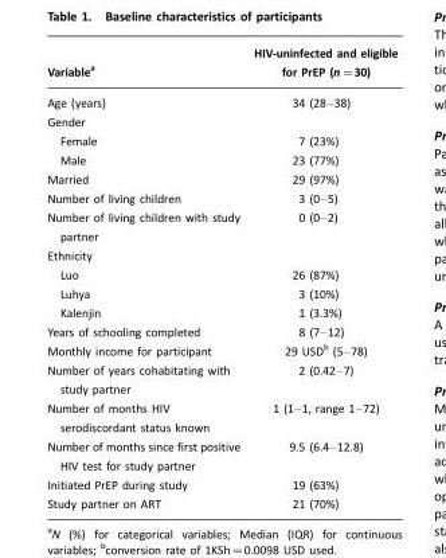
<table><thead><tr><td>Variable<sup>a</sup></td><td>HIV-uninfected and eligible for PrEP (n=30)</td></tr></thead><tbody><tr><td>Age (years)</td><td>34 (28–38)</td></tr><tr><td colspan="2">Gender</td></tr><tr><td>Female</td><td>7 (23%)</td></tr><tr><td>Male</td><td>23 (77%)</td></tr><tr><td>Married</td><td>29 (97%)</td></tr><tr><td>Number of living children</td><td>3 (0–5)</td></tr><tr><td>Number of living children with study partner</td><td>0 (0–2)</td></tr><tr><td colspan="2">Ethnicity</td></tr><tr><td>Luo</td><td>26 (87%)</td></tr><tr><td>Luhya</td><td>3 (10%)</td></tr><tr><td>Kalenjin</td><td>1 (3.3%)</td></tr><tr><td>Years of schooling completed</td><td>8 (7–12)</td></tr><tr><td>Monthly income for participant</td><td>29 USD<sup>b</sup> (5–78)</td></tr><tr><td>Number of years cohabitating with study partner</td><td>2 (0.42–7)</td></tr><tr><td>Number of months HIV serodiscordant status known</td><td>1 (1–1, range 1–72)</td></tr><tr><td>Number of months since first positive HIV test for study partner</td><td>9.5 (6.4–12.8)</td></tr><tr><td>Initiated PrEP during study</td><td>19 (63%)</td></tr><tr><td>Study partner on ART</td><td>21 (70%)</td></tr></tbody></table>